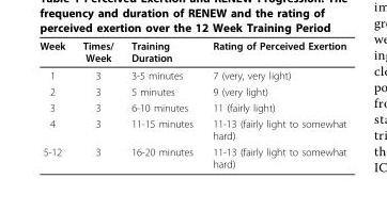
<table><thead><tr><td>Week</td><td>Times/ Week</td><td>Training Duration</td><td>Rating of Perceived Exertion</td></tr></thead><tbody><tr><td>1</td><td>3</td><td>3-5 minutes</td><td>7 (very, very light)</td></tr><tr><td>2</td><td>3</td><td>5 minutes</td><td>9 (very light)</td></tr><tr><td>3</td><td>3</td><td>6-10 minutes</td><td>11 (fairly light)</td></tr><tr><td>4</td><td>3</td><td>11-15 minutes</td><td>11-13 (fairly light to somewhat hard)</td></tr><tr><td>5-12</td><td>3</td><td>16-20 minutes</td><td>11-13 (fairly light to somewhat hard)</td></tr></tbody></table>